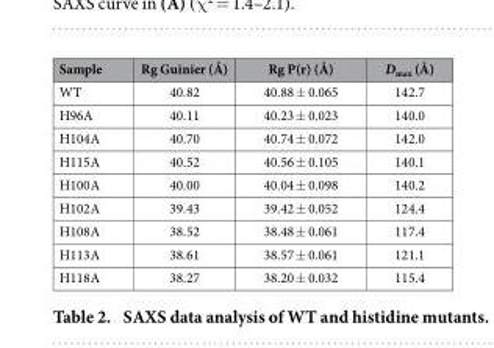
<table><thead><tr><td>Sample</td><td>Rg Guinier (Å)</td><td>Rg P(r) (Å)</td><td>D<sub>max</sub> (Å)</td></tr></thead><tbody><tr><td>WT</td><td>40.82</td><td>40.88 ± 0.065</td><td>142.7</td></tr><tr><td>H96A</td><td>40.11</td><td>40.23 ± 0.023</td><td>140.0</td></tr><tr><td>H104A</td><td>40.70</td><td>40.74 ± 0.072</td><td>142.0</td></tr><tr><td>H115A</td><td>40.52</td><td>40.56 ± 0.105</td><td>140.1</td></tr><tr><td>H100A</td><td>40.00</td><td>40.04 ± 0.098</td><td>140.2</td></tr><tr><td>H102A</td><td>39.43</td><td>39.42 ± 0.052</td><td>124.4</td></tr><tr><td>H108A</td><td>38.52</td><td>38.48 ± 0.061</td><td>117.4</td></tr><tr><td>H113A</td><td>38.61</td><td>38.57 ± 0.061</td><td>121.1</td></tr><tr><td>H118A</td><td>38.27</td><td>38.20 ± 0.032</td><td>115.4</td></tr></tbody></table>